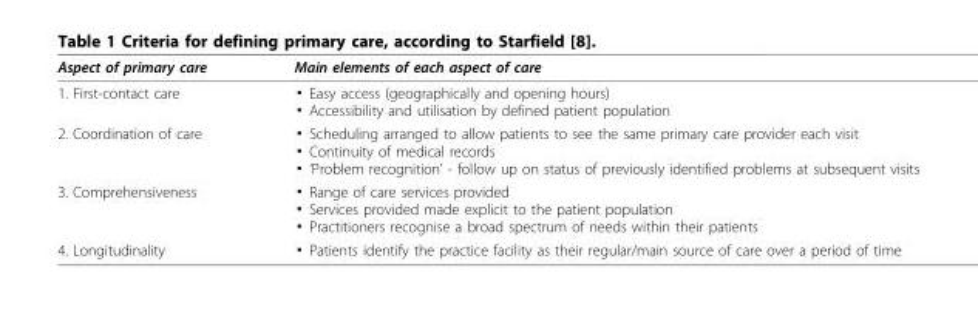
<table><thead><tr><td>Aspect of primary care</td><td>Main elements of each aspect of care</td></tr></thead><tbody><tr><td>1. First-contact care</td><td>▪ Easy access (geographically and opening hours) ▪ Accessibility and utilisation by defined patient population</td></tr><tr><td>2. Coordination of care</td><td>▪ Scheduling arranged to allow patients to see the same primary care provider each visit ▪ Continuity of medical records ▪ ‘Problem recognition’ - follow up on status of previously identified problems at subsequent visits</td></tr><tr><td>3. Comprehensiveness</td><td>▪ Range of care services provided ▪ Services provided made explicit to the patient population ▪ Practitioners recognise a broad spectrum of needs within their patients</td></tr><tr><td>4. Longitudinality</td><td>▪ Patients identify the practice facility as their regular/main source of care over a period of time</td></tr></tbody></table>